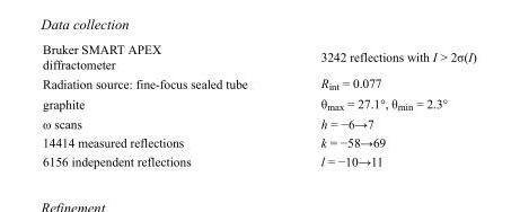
<table><tbody><tr><td>Bruker SMART APEX diffractometer</td><td>3242 reflections with I &gt; 2σ(I)</td></tr><tr><td>Radiation source: fine-focus sealed tube</td><td>R<sub>int</sub> = 0.077</td></tr><tr><td>graphite</td><td>θ<sub>max</sub> = 27.1°, θ<sub>min</sub> = 2.3°</td></tr><tr><td>ω scans</td><td>h = −6→7</td></tr><tr><td>14414 measured reflections</td><td>k = −58→69</td></tr><tr><td>6156 independent reflections</td><td>l = −10→11</td></tr></tbody></table>